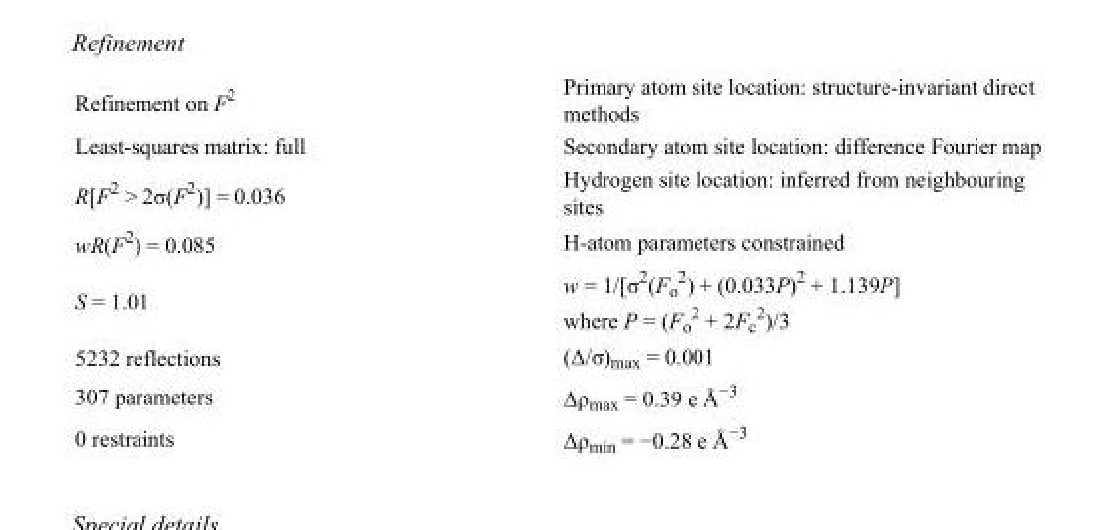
<table><tbody><tr><td>Refinement on F<sup>2</sup></td><td>Primary atom site location: structure-invariant direct methods</td></tr><tr><td>Least-squares matrix: full</td><td>Secondary atom site location: difference Fourier map</td></tr><tr><td>R[F<sup>2</sup> &gt; 2σ(F<sup>2</sup>)] = 0.036</td><td>Hydrogen site location: inferred from neighbouring sites</td></tr><tr><td>wR(F<sup>2</sup>) = 0.085</td><td>H-atom parameters constrained</td></tr><tr><td>S = 1.01</td><td>w = 1/[σ<sup>2</sup>(F<sub>o</sub> <sup>2</sup>) + (0.033P)<sup>2</sup> + 1.139P] where P = (F<sub>o</sub> <sup>2</sup> + 2F<sub>c</sub> <sup>2</sup>)/3</td></tr><tr><td>5232 reflections</td><td>(Δ/σ)<sub>max</sub> = 0.001</td></tr><tr><td>307 parameters</td><td>Δρ<sub>max</sub> = 0.39 e Å<sup>−3</sup></td></tr><tr><td>0 restraints</td><td>Δρ<sub>min</sub> = −0.28 e Å<sup>−3</sup></td></tr></tbody></table>